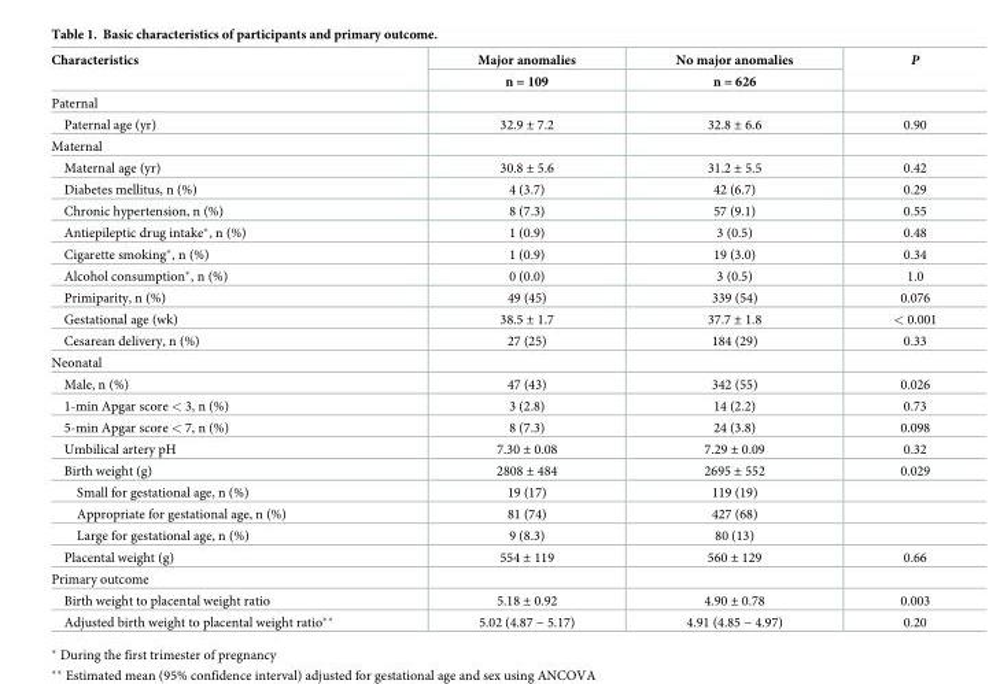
<table><thead><tr><td rowspan="2">Characteristics</td><td rowspan="2">Major anomalies n = 109</td><td rowspan="2">No major anomalies n = 626</td><td rowspan="2">P</td></tr><tr></tr></thead><tbody><tr><td colspan="4">Paternal</td></tr><tr><td>Paternal age (yr)</td><td>32.9 ± 7.2</td><td>32.8 ± 6.6</td><td>0.90</td></tr><tr><td colspan="4">Maternal</td></tr><tr><td>Maternal age (yr)</td><td>30.8 ± 5.6</td><td>31.2 ± 5.5</td><td>0.42</td></tr><tr><td>Diabetes mellitus, n (%)</td><td>4 (3.7)</td><td>42 (6.7)</td><td>0.29</td></tr><tr><td>Chronic hypertension, n (%)</td><td>8 (7.3)</td><td>57 (9.1)</td><td>0.55</td></tr><tr><td>Antiepileptic drug intake*, n (%)</td><td>1 (0.9)</td><td>3 (0.5)</td><td>0.48</td></tr><tr><td>Cigarette smoking*, n (%)</td><td>1 (0.9)</td><td>19 (3.0)</td><td>0.34</td></tr><tr><td>Alcohol consumption*, n (%)</td><td>0 (0.0)</td><td>3 (0.5)</td><td>1.0</td></tr><tr><td>Primiparity, n (%)</td><td>49 (45)</td><td>339 (54)</td><td>0.076</td></tr><tr><td>Gestational age (wk)</td><td>38.5 ± 1.7</td><td>37.7 ± 1.8</td><td>&lt; 0.001</td></tr><tr><td>Cesarean delivery, n (%)</td><td>27 (25)</td><td>184 (29)</td><td>0.33</td></tr><tr><td colspan="4">Neonatal</td></tr><tr><td>Male, n (%)</td><td>47 (43)</td><td>342 (55)</td><td>0.026</td></tr><tr><td>1-min Apgar score &lt; 3, n (%)</td><td>3 (2.8)</td><td>14 (2.2)</td><td>0.73</td></tr><tr><td>5-min Apgar score &lt; 7, n (%)</td><td>8 (7.3)</td><td>24 (3.8)</td><td>0.098</td></tr><tr><td>Umbilical artery pH</td><td>7.30 ± 0.08</td><td>7.29 ± 0.09</td><td>0.32</td></tr><tr><td>Birth weight (g)</td><td>2808 ± 484</td><td>2695 ± 552</td><td>0.029</td></tr><tr><td>Small for gestational age, n (%)</td><td>19 (17)</td><td>119 (19)</td><td></td></tr><tr><td>Appropriate for gestational age, n (%)</td><td>81 (74)</td><td>427 (68)</td><td></td></tr><tr><td>Large for gestational age, n (%)</td><td>9 (8.3)</td><td>80 (13)</td><td></td></tr><tr><td>Placental weight (g)</td><td>554 ± 119</td><td>560 ± 129</td><td>0.66</td></tr><tr><td colspan="4">Primary outcome</td></tr><tr><td>Birth weight to placental weight ratio</td><td>5.18 ± 0.92</td><td>4.90 ± 0.78</td><td>0.003</td></tr><tr><td>Adjusted birth weight to placental weight ratio**</td><td>5.02 (4.87 − 5.17)</td><td>4.91 (4.85 − 4.97)</td><td>0.20</td></tr></tbody></table>